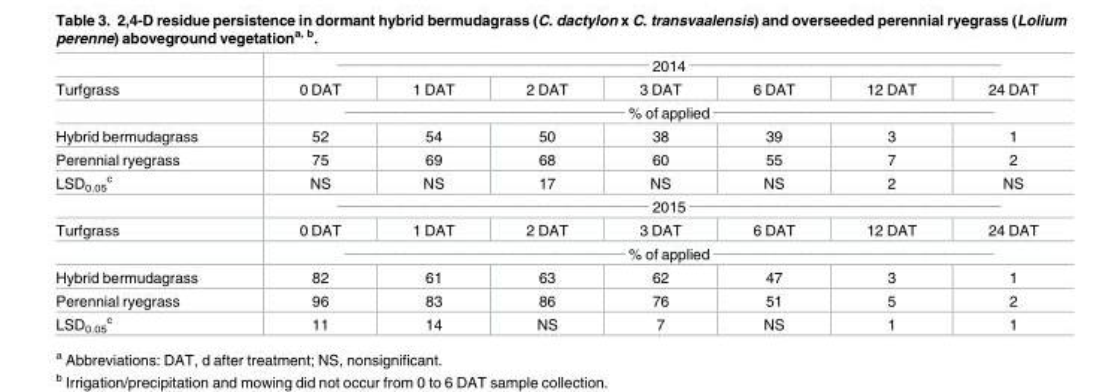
<table><thead><tr><td rowspan="2">Turfgrass</td><td colspan="7">__________________________________________________ 2014 __________________________________________________</td></tr><tr><td>0 DAT</td><td>1 DAT</td><td>2 DAT</td><td>3 DAT</td><td>6 DAT</td><td>12 DAT</td><td>24 DAT</td></tr></thead><tbody><tr><td></td><td colspan="7">_____________________________________________ % of applied _____________________________________________</td></tr><tr><td>Hybrid bermudagrass</td><td>52</td><td>54</td><td>50</td><td>38</td><td>39</td><td>3</td><td>1</td></tr><tr><td>Perennial ryegrass</td><td>75</td><td>69</td><td>68</td><td>60</td><td>55</td><td>7</td><td>2</td></tr><tr><td rowspan="2">LSD<sub>0.05</sub> <sup>c</sup></td><td>NS</td><td>NS</td><td>17</td><td>NS</td><td>NS</td><td>2</td><td>NS</td></tr><tr><td colspan="7">__________________________________________________ 2015 __________________________________________________</td></tr><tr><td rowspan="2">Turfgrass</td><td>0 DAT</td><td>1 DAT</td><td>2 DAT</td><td>3 DAT</td><td>6 DAT</td><td>12 DAT</td><td>24 DAT</td></tr><tr><td colspan="7">_____________________________________________ % of applied _____________________________________________</td></tr><tr><td>Hybrid bermudagrass</td><td>82</td><td>61</td><td>63</td><td>62</td><td>47</td><td>3</td><td>1</td></tr><tr><td>Perennial ryegrass</td><td>96</td><td>83</td><td>86</td><td>76</td><td>51</td><td>5</td><td>2</td></tr><tr><td>LSD<sub>0.05</sub> <sup>c</sup></td><td>11</td><td>14</td><td>NS</td><td>7</td><td>NS</td><td>1</td><td>1</td></tr></tbody></table>